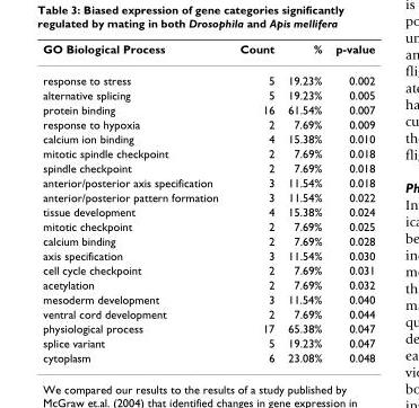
<table><thead><tr><td>GO Biological Process</td><td>Count</td><td>%</td><td>p-value</td></tr></thead><tbody><tr><td>response to stress</td><td>5</td><td>19.23%</td><td>0.002</td></tr><tr><td>alternative splicing</td><td>5</td><td>19.23%</td><td>0.005</td></tr><tr><td>protein binding</td><td>16</td><td>61.54%</td><td>0.007</td></tr><tr><td>response to hypoxia</td><td>2</td><td>7.69%</td><td>0.009</td></tr><tr><td>calcium ion binding</td><td>4</td><td>15.38%</td><td>0.010</td></tr><tr><td>mitotic spindle checkpoint</td><td>2</td><td>7.69%</td><td>0.018</td></tr><tr><td>spindle checkpoint</td><td>2</td><td>7.69%</td><td>0.018</td></tr><tr><td>anterior/posterior axis specification</td><td>3</td><td>11.54%</td><td>0.018</td></tr><tr><td>anterior/posterior pattern formation</td><td>3</td><td>11.54%</td><td>0.022</td></tr><tr><td>tissue development</td><td>4</td><td>15.38%</td><td>0.024</td></tr><tr><td>mitotic checkpoint</td><td>2</td><td>7.69%</td><td>0.025</td></tr><tr><td>calcium binding</td><td>2</td><td>7.69%</td><td>0.028</td></tr><tr><td>axis specification</td><td>3</td><td>11.54%</td><td>0.030</td></tr><tr><td>cell cycle checkpoint</td><td>2</td><td>7.69%</td><td>0.031</td></tr><tr><td>acetylation</td><td>2</td><td>7.69%</td><td>0.032</td></tr><tr><td>mesoderm development</td><td>3</td><td>11.54%</td><td>0.040</td></tr><tr><td>ventral cord development</td><td>2</td><td>7.69%</td><td>0.044</td></tr><tr><td>physiological process</td><td>17</td><td>65.38%</td><td>0.047</td></tr><tr><td>splice variant</td><td>5</td><td>19.23%</td><td>0.047</td></tr><tr><td>cytoplasm</td><td>6</td><td>23.08%</td><td>0.048</td></tr></tbody></table>